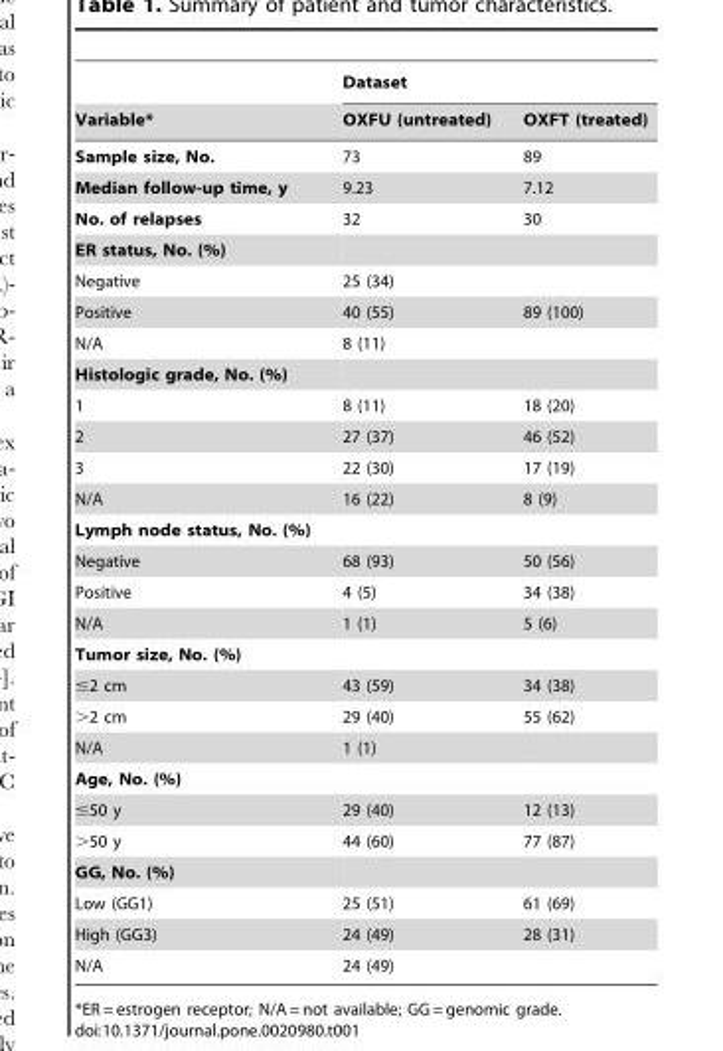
<table><thead><tr><td rowspan="2">Variable*</td><td colspan="2">Dataset</td></tr><tr><td>OXFU (untreated)</td><td>OXFT (treated)</td></tr></thead><tbody><tr><td>Sample size, No.</td><td>73</td><td>89</td></tr><tr><td>Median follow-up time, y</td><td>9.23</td><td>7.12</td></tr><tr><td>No. of relapses</td><td>32</td><td>30</td></tr><tr><td colspan="3">ER status, No. (%)</td></tr><tr><td>Negative</td><td>25 (34)</td><td></td></tr><tr><td>Positive</td><td>40 (55)</td><td>89 (100)</td></tr><tr><td>N/A</td><td>8 (11)</td><td></td></tr><tr><td colspan="3">Histologic grade, No. (%)</td></tr><tr><td>1</td><td>8 (11)</td><td>18 (20)</td></tr><tr><td>2</td><td>27 (37)</td><td>46 (52)</td></tr><tr><td>3</td><td>22 (30)</td><td>17 (19)</td></tr><tr><td>N/A</td><td>16 (22)</td><td>8 (9)</td></tr><tr><td colspan="3">Lymph node status, No. (%)</td></tr><tr><td>Negative</td><td>68 (93)</td><td>50 (56)</td></tr><tr><td>Positive</td><td>4 (5)</td><td>34 (38)</td></tr><tr><td>N/A</td><td>1 (1)</td><td>5 (6)</td></tr><tr><td colspan="3">Tumor size, No. (%)</td></tr><tr><td>≤2 cm</td><td>43 (59)</td><td>34 (38)</td></tr><tr><td>&gt;2 cm</td><td>29 (40)</td><td>55 (62)</td></tr><tr><td>N/A</td><td>1 (1)</td><td></td></tr><tr><td colspan="3">Age, No. (%)</td></tr><tr><td>≤50 y</td><td>29 (40)</td><td>12 (13)</td></tr><tr><td>&gt;50 y</td><td>44 (60)</td><td>77 (87)</td></tr><tr><td colspan="3">GG, No. (%)</td></tr><tr><td>Low (GG1)</td><td>25 (51)</td><td>61 (69)</td></tr><tr><td>High (GG3)</td><td>24 (49)</td><td>28 (31)</td></tr><tr><td>N/A</td><td>24 (49)</td><td></td></tr></tbody></table>